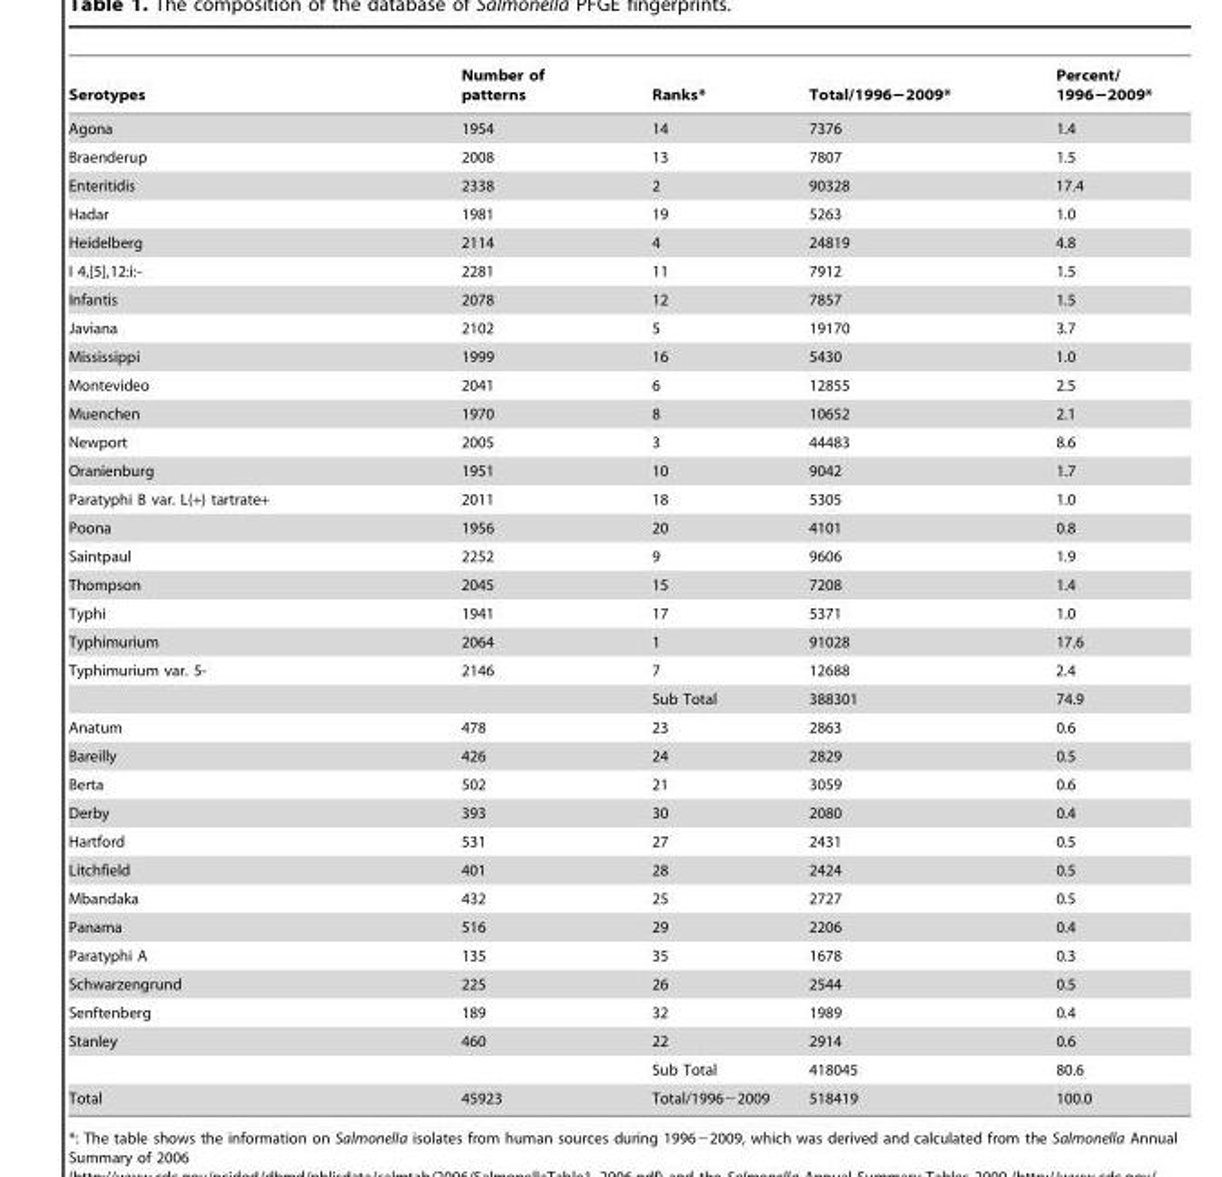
<table><thead><tr><td>Serotypes</td><td>Number of patterns</td><td>Ranks*</td><td>Total/1996−2009*</td><td>Percent/ 1996−2009*</td></tr></thead><tbody><tr><td>Agona</td><td>1954</td><td>14</td><td>7376</td><td>1.4</td></tr><tr><td>Braenderup</td><td>2008</td><td>13</td><td>7807</td><td>1.5</td></tr><tr><td>Enteritidis</td><td>2338</td><td>2</td><td>90328</td><td>17.4</td></tr><tr><td>Hadar</td><td>1981</td><td>19</td><td>5263</td><td>1.0</td></tr><tr><td>Heidelberg</td><td>2114</td><td>4</td><td>24819</td><td>4.8</td></tr><tr><td>I 4,[5],12:i:-</td><td>2281</td><td>11</td><td>7912</td><td>1.5</td></tr><tr><td>Infantis</td><td>2078</td><td>12</td><td>7857</td><td>1.5</td></tr><tr><td>Javiana</td><td>2102</td><td>5</td><td>19170</td><td>3.7</td></tr><tr><td>Mississippi</td><td>1999</td><td>16</td><td>5430</td><td>1.0</td></tr><tr><td>Montevideo</td><td>2041</td><td>6</td><td>12855</td><td>2.5</td></tr><tr><td>Muenchen</td><td>1970</td><td>8</td><td>10652</td><td>2.1</td></tr><tr><td>Newport</td><td>2005</td><td>3</td><td>44483</td><td>8.6</td></tr><tr><td>Oranienburg</td><td>1951</td><td>10</td><td>9042</td><td>1.7</td></tr><tr><td>Paratyphi B var. L(+) tartrate+</td><td>2011</td><td>18</td><td>5305</td><td>1.0</td></tr><tr><td>Poona</td><td>1956</td><td>20</td><td>4101</td><td>0.8</td></tr><tr><td>Saintpaul</td><td>2252</td><td>9</td><td>9606</td><td>1.9</td></tr><tr><td>Thompson</td><td>2045</td><td>15</td><td>7208</td><td>1.4</td></tr><tr><td>Typhi</td><td>1941</td><td>17</td><td>5371</td><td>1.0</td></tr><tr><td>Typhimurium</td><td>2064</td><td>1</td><td>91028</td><td>17.6</td></tr><tr><td rowspan="2">Typhimurium var. 5-</td><td>2146</td><td>7</td><td>12688</td><td>2.4</td></tr><tr><td></td><td>Sub Total</td><td>388301</td><td>74.9</td></tr><tr><td>Anatum</td><td>478</td><td>23</td><td>2863</td><td>0.6</td></tr><tr><td>Bareilly</td><td>426</td><td>24</td><td>2829</td><td>0.5</td></tr><tr><td>Berta</td><td>502</td><td>21</td><td>3059</td><td>0.6</td></tr><tr><td>Derby</td><td>393</td><td>30</td><td>2080</td><td>0.4</td></tr><tr><td>Hartford</td><td>531</td><td>27</td><td>2431</td><td>0.5</td></tr><tr><td>Litchfield</td><td>401</td><td>28</td><td>2424</td><td>0.5</td></tr><tr><td>Mbandaka</td><td>432</td><td>25</td><td>2727</td><td>0.5</td></tr><tr><td>Panama</td><td>516</td><td>29</td><td>2206</td><td>0.4</td></tr><tr><td>Paratyphi A</td><td>135</td><td>35</td><td>1678</td><td>0.3</td></tr><tr><td>Schwarzengrund</td><td>225</td><td>26</td><td>2544</td><td>0.5</td></tr><tr><td>Senftenberg</td><td>189</td><td>32</td><td>1989</td><td>0.4</td></tr><tr><td rowspan="2">Stanley</td><td>460</td><td>22</td><td>2914</td><td>0.6</td></tr><tr><td></td><td>Sub Total</td><td>418045</td><td>80.6</td></tr><tr><td>Total</td><td>45923</td><td>Total/1996−2009</td><td>518419</td><td>100.0</td></tr></tbody></table>